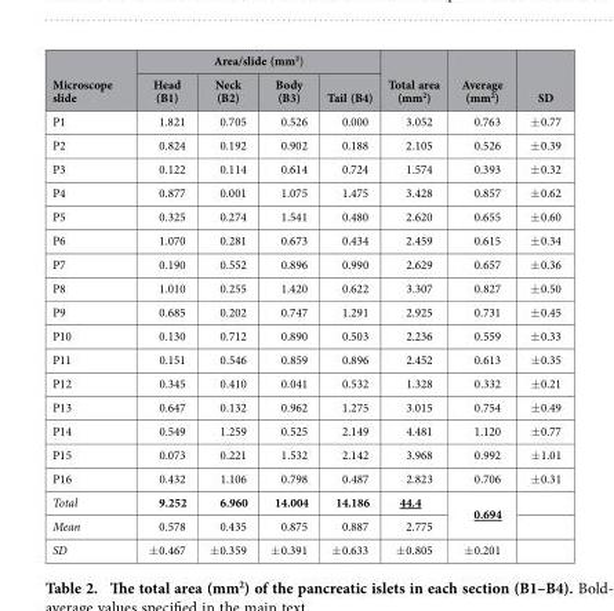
<table><thead><tr><td rowspan="2">Microscope slide</td><td colspan="4">Area/slide (mm<sup>2</sup>)</td><td rowspan="2">Total area (mm<sup>2</sup>)</td><td rowspan="2">Average (mm<sup>2</sup>)</td><td rowspan="2">SD</td></tr><tr><td>Head (B1)</td><td>Neck (B2)</td><td>Body (B3)</td><td>Tail (B4)</td></tr></thead><tbody><tr><td>P1</td><td>1.821</td><td>0.705</td><td>0.526</td><td>0.000</td><td>3.052</td><td>0.763</td><td>± 0.77</td></tr><tr><td>P2</td><td>0.824</td><td>0.192</td><td>0.902</td><td>0.188</td><td>2.105</td><td>0.526</td><td>± 0.39</td></tr><tr><td>P3</td><td>0.122</td><td>0.114</td><td>0.614</td><td>0.724</td><td>1.574</td><td>0.393</td><td>± 0.32</td></tr><tr><td>P4</td><td>0.877</td><td>0.001</td><td>1.075</td><td>1.475</td><td>3.428</td><td>0.857</td><td>± 0.62</td></tr><tr><td>P5</td><td>0.325</td><td>0.274</td><td>1.541</td><td>0.480</td><td>2.620</td><td>0.655</td><td>± 0.60</td></tr><tr><td>P6</td><td>1.070</td><td>0.281</td><td>0.673</td><td>0.434</td><td>2.459</td><td>0.615</td><td>± 0.34</td></tr><tr><td>P7</td><td>0.190</td><td>0.552</td><td>0.896</td><td>0.990</td><td>2.629</td><td>0.657</td><td>± 0.36</td></tr><tr><td>P8</td><td>1.010</td><td>0.255</td><td>1.420</td><td>0.622</td><td>3.307</td><td>0.827</td><td>± 0.50</td></tr><tr><td>P9</td><td>0.685</td><td>0.202</td><td>0.747</td><td>1.291</td><td>2.925</td><td>0.731</td><td>± 0.45</td></tr><tr><td>P10</td><td>0.130</td><td>0.712</td><td>0.890</td><td>0.503</td><td>2.236</td><td>0.559</td><td>± 0.33</td></tr><tr><td>P11</td><td>0.151</td><td>0.546</td><td>0.859</td><td>0.896</td><td>2.452</td><td>0.613</td><td>± 0.35</td></tr><tr><td>P12</td><td>0.345</td><td>0.410</td><td>0.041</td><td>0.532</td><td>1.328</td><td>0.332</td><td>± 0.21</td></tr><tr><td>P13</td><td>0.647</td><td>0.132</td><td>0.962</td><td>1.275</td><td>3.015</td><td>0.754</td><td>± 0.49</td></tr><tr><td>P14</td><td>0.549</td><td>1.259</td><td>0.525</td><td>2.149</td><td>4.481</td><td>1.120</td><td>± 0.77</td></tr><tr><td>P15</td><td>0.073</td><td>0.221</td><td>1.532</td><td>2.142</td><td>3.968</td><td>0.992</td><td>± 1.01</td></tr><tr><td>P16</td><td>0.432</td><td>1.106</td><td>0.798</td><td>0.487</td><td>2.823</td><td>0.706</td><td>± 0.31</td></tr><tr><td>Total</td><td>9.252</td><td>6.960</td><td>14.004</td><td>14.186</td><td>44.4</td><td rowspan="2">0.694</td><td></td></tr><tr><td>Mean</td><td>0.578</td><td>0.435</td><td>0.875</td><td>0.887</td><td>2.775</td><td></td></tr><tr><td>SD</td><td>± 0.467</td><td>± 0.359</td><td>± 0.391</td><td>± 0.633</td><td>± 0.805</td><td>± 0.201</td><td></td></tr></tbody></table>